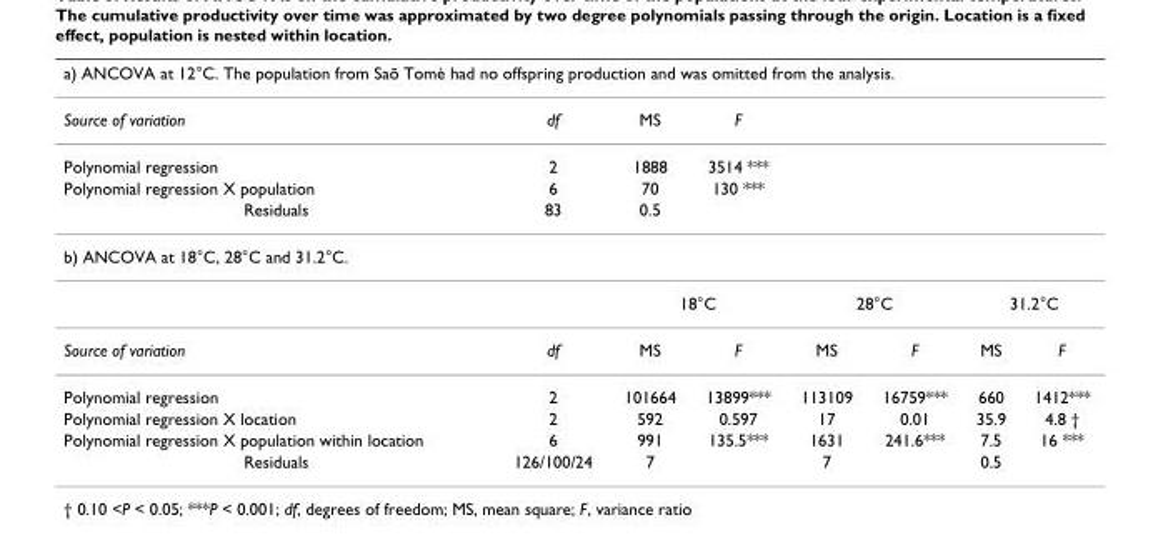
<table><thead><tr><td colspan="8">a) ANCOVA at 12°C. The population from Saõ Tomè had no offspring production and was omitted from the analysis.</td></tr><tr><td>Source of variation</td><td>df</td><td>MS</td><td>F</td><td></td><td></td><td></td><td></td></tr></thead><tbody><tr><td>Polynomial regression</td><td>2</td><td>1888</td><td>3514 ***</td><td></td><td></td><td></td><td></td></tr><tr><td>Polynomial regression X population</td><td>6</td><td>70</td><td>130 ***</td><td></td><td></td><td></td><td></td></tr><tr><td>Residuals</td><td>83</td><td>0.5</td><td></td><td></td><td></td><td></td><td></td></tr><tr><td colspan="8">b) ANCOVA at 18°C, 28°C and 31.2°C.</td></tr><tr><td></td><td></td><td colspan="2">18°C</td><td colspan="2">28°C</td><td colspan="2">31.2°C</td></tr><tr><td>Source of variation</td><td>df</td><td>MS</td><td>F</td><td>MS</td><td>F</td><td>MS</td><td>F</td></tr><tr><td>Polynomial regression</td><td>2</td><td>101664</td><td>13899***</td><td>113109</td><td>16759***</td><td>660</td><td>1412***</td></tr><tr><td>Polynomial regression X location</td><td>2</td><td>592</td><td>0.597</td><td>17</td><td>0.01</td><td>35.9</td><td>4.8 †</td></tr><tr><td>Polynomial regression X population within location</td><td>6</td><td>991</td><td>135.5***</td><td>1631</td><td>241.6***</td><td>7.5</td><td>16 ***</td></tr><tr><td>Residuals</td><td>126/100/24</td><td>7</td><td></td><td>7</td><td></td><td>0.5</td><td></td></tr></tbody></table>